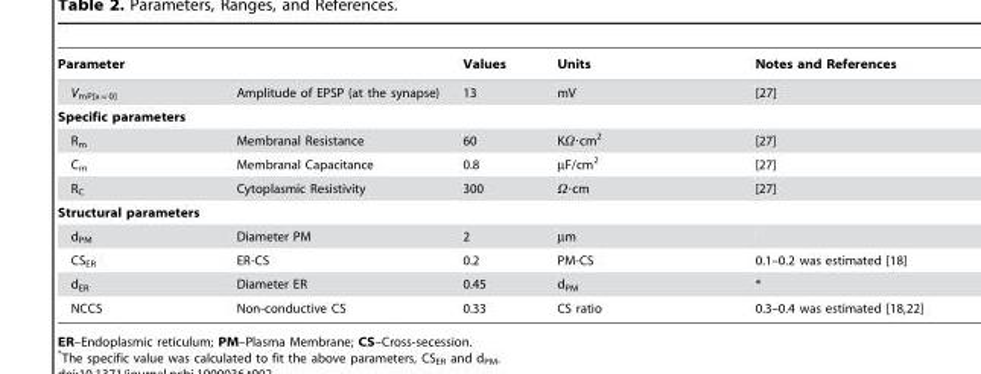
<table><thead><tr><td colspan="2">Parameter</td><td rowspan="2">Values 13</td><td rowspan="2">Units mV</td><td rowspan="2">Notes and References [27]</td></tr><tr><td>V<sub>mP[x = 0]</sub></td><td>Amplitude of EPSP (at the synapse)</td></tr></thead><tbody><tr><td colspan="5">Specific parameters</td></tr><tr><td>R<sub>m</sub></td><td>Membranal Resistance</td><td>60</td><td>KΩ·cm<sup>2</sup></td><td>[27]</td></tr><tr><td>C<sub>m</sub></td><td>Membranal Capacitance</td><td>0.8</td><td>µF/cm<sup>2</sup></td><td>[27]</td></tr><tr><td>R<sub>C</sub></td><td>Cytoplasmic Resistivity</td><td>300</td><td>Ω·cm</td><td>[27]</td></tr><tr><td colspan="5">Structural parameters</td></tr><tr><td>d<sub>PM</sub></td><td>Diameter PM</td><td>2</td><td>µm</td><td></td></tr><tr><td>CS<sub>ER</sub></td><td>ER-CS</td><td>0.2</td><td>PM-CS</td><td>0.1–0.2 was estimated [18]</td></tr><tr><td>d<sub>ER</sub></td><td>Diameter ER</td><td>0.45</td><td>d<sub>PM</sub></td><td>*</td></tr><tr><td>NCCS</td><td>Non-conductive CS</td><td>0.33</td><td>CS ratio</td><td>0.3–0.4 was estimated [18,22]</td></tr></tbody></table>